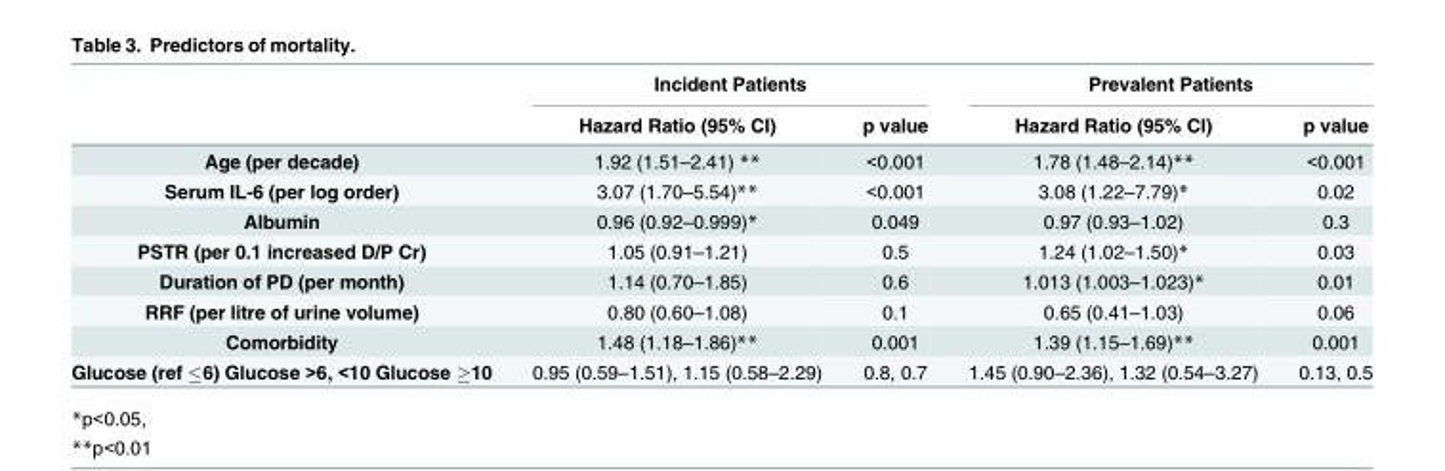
<table><thead><tr><td rowspan="2"></td><td colspan="2">Incident Patients</td><td colspan="2">Prevalent Patients</td></tr><tr><td>Hazard Ratio (95% CI)</td><td>p value</td><td>Hazard Ratio (95% CI)</td><td>p value</td></tr></thead><tbody><tr><td>Age (per decade)</td><td>1.92 (1.51–2.41) **</td><td>&lt;0.001</td><td>1.78 (1.48–2.14)**</td><td>&lt;0.001</td></tr><tr><td>Serum IL-6 (per log order)</td><td>3.07 (1.70–5.54)**</td><td>&lt;0.001</td><td>3.08 (1.22–7.79)*</td><td>0.02</td></tr><tr><td>Albumin</td><td>0.96 (0.92–0.999)*</td><td>0.049</td><td>0.97 (0.93–1.02)</td><td>0.3</td></tr><tr><td>PSTR (per 0.1 increased D/P Cr)</td><td>1.05 (0.91–1.21)</td><td>0.5</td><td>1.24 (1.02–1.50)*</td><td>0.03</td></tr><tr><td>Duration of PD (per month)</td><td>1.14 (0.70–1.85)</td><td>0.6</td><td>1.013 (1.003–1.023)*</td><td>0.01</td></tr><tr><td>RRF (per litre of urine volume)</td><td>0.80 (0.60–1.08)</td><td>0.1</td><td>0.65 (0.41–1.03)</td><td>0.06</td></tr><tr><td>Comorbidity</td><td>1.48 (1.18–1.86)**</td><td>0.001</td><td>1.39 (1.15–1.69)**</td><td>0.001</td></tr><tr><td>Glucose (ref ≤6) Glucose &gt;6, &lt;10 Glucose ≥10</td><td>0.95 (0.59–1.51), 1.15 (0.58–2.29)</td><td>0.8, 0.7</td><td>1.45 (0.90–2.36), 1.32 (0.54–3.27)</td><td>0.13, 0.5</td></tr></tbody></table>